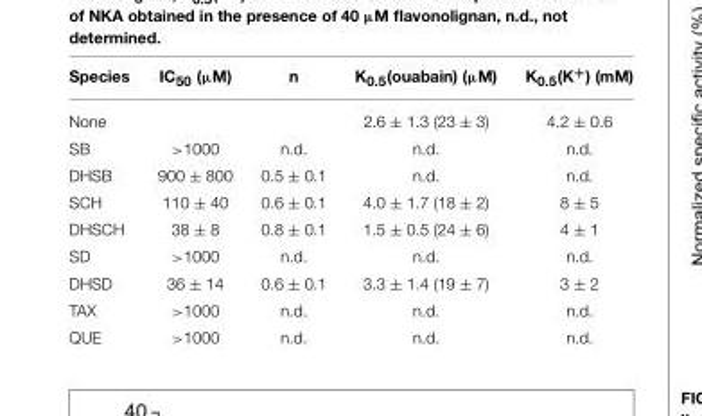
<table><thead><tr><td>Species</td><td>IC<sub>50</sub> (µM)</td><td>n</td><td>K<sub>0.5</sub>(ouabain) (µM)</td><td>K<sub>0.5</sub>(K<sup>+</sup>) (mM)</td></tr></thead><tbody><tr><td>None</td><td></td><td></td><td>2.6 ± 1.3 (23 ± 3)</td><td>4.2 ± 0.6</td></tr><tr><td>SB</td><td>&gt;1000</td><td>n.d.</td><td>n.d.</td><td>n.d.</td></tr><tr><td>DHSB</td><td>900 ± 800</td><td>0.5 ± 0.1</td><td>n.d.</td><td>n.d.</td></tr><tr><td>SCH</td><td>110 ± 40</td><td>0.6 ± 0.1</td><td>4.0 ± 1.7 (18 ± 2)</td><td>8 ± 5</td></tr><tr><td>DHSCH</td><td>38 ± 8</td><td>0.8 ± 0.1</td><td>1.5 ± 0.5 (24 ± 6)</td><td>4 ± 1</td></tr><tr><td>SD</td><td>&gt;1000</td><td>n.d.</td><td>n.d.</td><td>n.d.</td></tr><tr><td>DHSD</td><td>36 ± 14</td><td>0.6 ± 0.1</td><td>3.3 ± 1.4 (19 ± 7)</td><td>3 ± 2</td></tr><tr><td>TAX</td><td>&gt;1000</td><td>n.d.</td><td>n.d.</td><td>n.d.</td></tr><tr><td>QUE</td><td>&gt;1000</td><td>n.d.</td><td>n.d.</td><td>n.d.</td></tr></tbody></table>